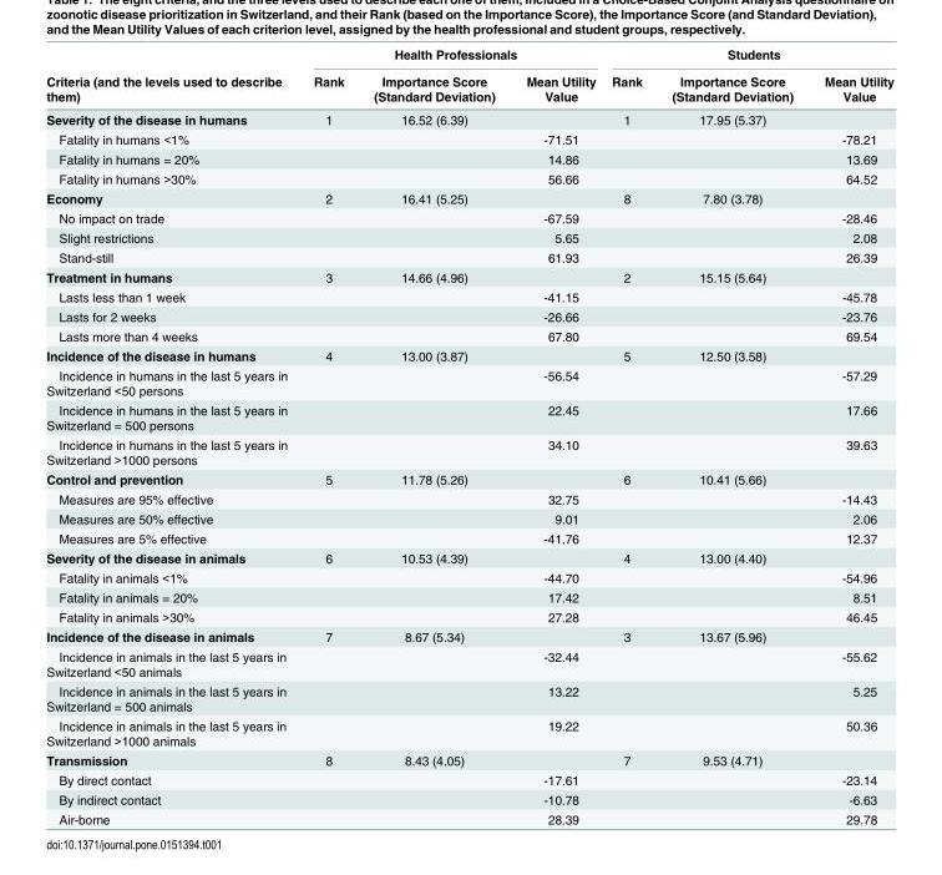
<table><thead><tr><td rowspan="2">Criteria (and the levels used to describe them)</td><td colspan="3">Health Professionals</td><td colspan="3">Students</td></tr><tr><td>Rank</td><td>Importance Score (Standard Deviation)</td><td>Mean Utility Value</td><td>Rank</td><td>Importance Score (Standard Deviation)</td><td>Mean Utility Value</td></tr></thead><tbody><tr><td>Severity of the disease in humans</td><td>1</td><td>16.52 (6.39)</td><td></td><td>1</td><td>17.95 (5.37)</td><td></td></tr><tr><td>Fatality in humans &lt;1%</td><td></td><td></td><td>-71.51</td><td></td><td></td><td>-78.21</td></tr><tr><td>Fatality in humans = 20%</td><td></td><td></td><td>14.86</td><td></td><td></td><td>13.69</td></tr><tr><td>Fatality in humans &gt;30%</td><td></td><td></td><td>56.66</td><td></td><td></td><td>64.52</td></tr><tr><td>Economy</td><td>2</td><td>16.41 (5.25)</td><td></td><td>8</td><td>7.80 (3.78)</td><td></td></tr><tr><td>No impact on trade</td><td></td><td></td><td>-67.59</td><td></td><td></td><td>-28.46</td></tr><tr><td>Slight restrictions</td><td></td><td></td><td>5.65</td><td></td><td></td><td>2.08</td></tr><tr><td>Stand-still</td><td></td><td></td><td>61.93</td><td></td><td></td><td>26.39</td></tr><tr><td>Treatment in humans</td><td>3</td><td>14.66 (4.96)</td><td></td><td>2</td><td>15.15 (5.64)</td><td></td></tr><tr><td>Lasts less than 1 week</td><td></td><td></td><td>-41.15</td><td></td><td></td><td>-45.78</td></tr><tr><td>Lasts for 2 weeks</td><td></td><td></td><td>-26.66</td><td></td><td></td><td>-23.76</td></tr><tr><td>Lasts more than 4 weeks</td><td></td><td></td><td>67.80</td><td></td><td></td><td>69.54</td></tr><tr><td>Incidence of the disease in humans</td><td>4</td><td>13.00 (3.87)</td><td></td><td>5</td><td>12.50 (3.58)</td><td></td></tr><tr><td>Incidence in humans in the last 5 years in Switzerland &lt;50 persons</td><td></td><td></td><td>-56.54</td><td></td><td></td><td>-57.29</td></tr><tr><td>Incidence in humans in the last 5 years in Switzerland = 500 persons</td><td></td><td></td><td>22.45</td><td></td><td></td><td>17.66</td></tr><tr><td>Incidence in humans in the last 5 years in Switzerland &gt;1000 persons</td><td></td><td></td><td>34.10</td><td></td><td></td><td>39.63</td></tr><tr><td>Control and prevention</td><td>5</td><td>11.78 (5.26)</td><td></td><td>6</td><td>10.41 (5.66)</td><td></td></tr><tr><td>Measures are 95% effective</td><td></td><td></td><td>32.75</td><td></td><td></td><td>-14.43</td></tr><tr><td>Measures are 50% effective</td><td></td><td></td><td>9.01</td><td></td><td></td><td>2.06</td></tr><tr><td>Measures are 5% effective</td><td></td><td></td><td>-41.76</td><td></td><td></td><td>12.37</td></tr><tr><td>Severity of the disease in animals</td><td>6</td><td>10.53 (4.39)</td><td></td><td>4</td><td>13.00 (4.40)</td><td></td></tr><tr><td>Fatality in animals &lt;1%</td><td></td><td></td><td>-44.70</td><td></td><td></td><td>-54.96</td></tr><tr><td>Fatality in animals = 20%</td><td></td><td></td><td>17.42</td><td></td><td></td><td>8.51</td></tr><tr><td>Fatality in animals &gt;30%</td><td></td><td></td><td>27.28</td><td></td><td></td><td>46.45</td></tr><tr><td>Incidence of the disease in animals</td><td>7</td><td>8.67 (5.34)</td><td></td><td>3</td><td>13.67 (5.96)</td><td></td></tr><tr><td>Incidence in animals in the last 5 years in Switzerland &lt;50 animals</td><td></td><td></td><td>-32.44</td><td></td><td></td><td>-55.62</td></tr><tr><td>Incidence in animals in the last 5 years in Switzerland = 500 animals</td><td></td><td></td><td>13.22</td><td></td><td></td><td>5.25</td></tr><tr><td>Incidence in animals in the last 5 years in Switzerland &gt;1000 animals</td><td></td><td></td><td>19.22</td><td></td><td></td><td>50.36</td></tr><tr><td>Transmission</td><td>8</td><td>8.43 (4.05)</td><td></td><td>7</td><td>9.53 (4.71)</td><td></td></tr><tr><td>By direct contact</td><td></td><td></td><td>-17.61</td><td></td><td></td><td>-23.14</td></tr><tr><td>By indirect contact</td><td></td><td></td><td>-10.78</td><td></td><td></td><td>-6.63</td></tr><tr><td>Air-borne</td><td></td><td></td><td>28.39</td><td></td><td></td><td>29.78</td></tr></tbody></table>